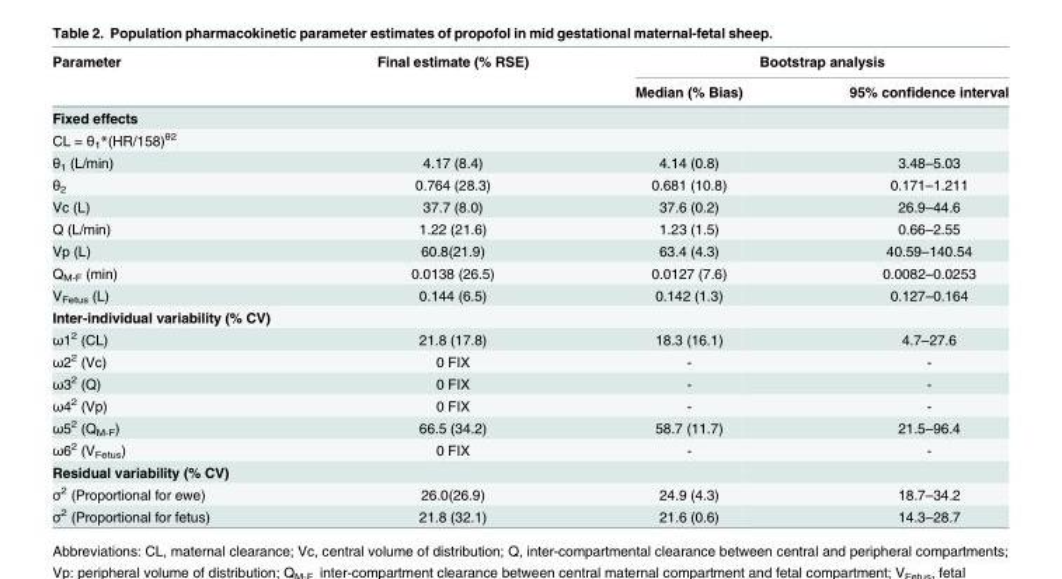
<table><thead><tr><td rowspan="2">Parameter</td><td rowspan="2">Final estimate (% RSE)</td><td colspan="2">Bootstrap analysis</td></tr><tr><td>Median (% Bias)</td><td>95% confidence interval</td></tr></thead><tbody><tr><td colspan="4">Fixed effects</td></tr><tr><td colspan="4">CL = θ<sub>1</sub>*(HR/158)<sup>θ2</sup></td></tr><tr><td>θ<sub>1</sub> (L/min)</td><td>4.17 (8.4)</td><td>4.14 (0.8)</td><td>3.48–5.03</td></tr><tr><td>θ<sub>2</sub></td><td>0.764 (28.3)</td><td>0.681 (10.8)</td><td>0.171–1.211</td></tr><tr><td>Vc (L)</td><td>37.7 (8.0)</td><td>37.6 (0.2)</td><td>26.9–44.6</td></tr><tr><td>Q (L/min)</td><td>1.22 (21.6)</td><td>1.23 (1.5)</td><td>0.66–2.55</td></tr><tr><td>Vp (L)</td><td>60.8(21.9)</td><td>63.4 (4.3)</td><td>40.59–140.54</td></tr><tr><td>Q<sub>M-F</sub> (min)</td><td>0.0138 (26.5)</td><td>0.0127 (7.6)</td><td>0.0082–0.0253</td></tr><tr><td>V<sub>Fetus</sub> (L)</td><td>0.144 (6.5)</td><td>0.142 (1.3)</td><td>0.127–0.164</td></tr><tr><td colspan="4">Inter-individual variability (% CV)</td></tr><tr><td>ω1<sup>2</sup> (CL)</td><td>21.8 (17.8)</td><td>18.3 (16.1)</td><td>4.7–27.6</td></tr><tr><td>ω2<sup>2</sup> (Vc)</td><td>0 FIX</td><td>-</td><td>-</td></tr><tr><td>ω3<sup>2</sup> (Q)</td><td>0 FIX</td><td>-</td><td>-</td></tr><tr><td>ω4<sup>2</sup> (Vp)</td><td>0 FIX</td><td>-</td><td>-</td></tr><tr><td>ω5<sup>2</sup> (Q<sub>M-F</sub>)</td><td>66.5 (34.2)</td><td>58.7 (11.7)</td><td>21.5–96.4</td></tr><tr><td>ω6<sup>2</sup> (V<sub>Fetus</sub>)</td><td>0 FIX</td><td>-</td><td>-</td></tr><tr><td colspan="4">Residual variability (% CV)</td></tr><tr><td>σ<sup>2</sup> (Proportional for ewe)</td><td>26.0(26.9)</td><td>24.9 (4.3)</td><td>18.7–34.2</td></tr><tr><td>σ<sup>2</sup> (Proportional for fetus)</td><td>21.8 (32.1)</td><td>21.6 (0.6)</td><td>14.3–28.7</td></tr></tbody></table>